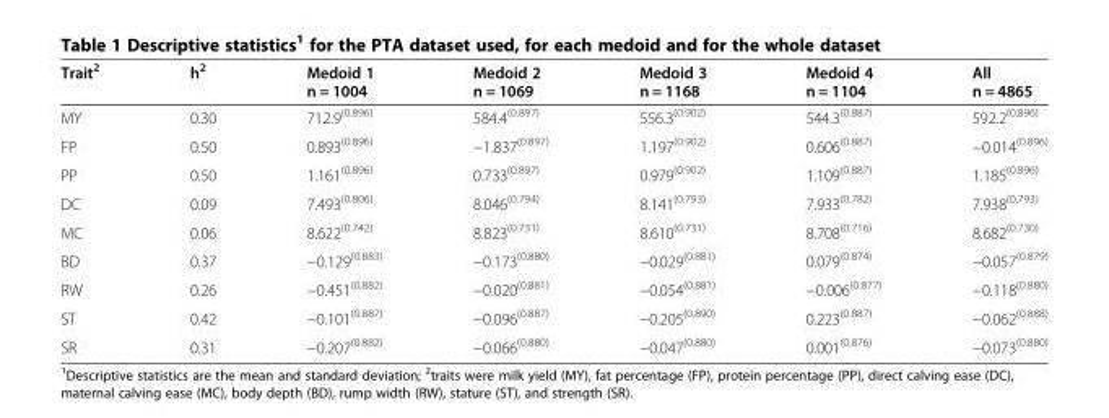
<table><thead><tr><td>Trait<sup>2</sup></td><td>h<sup>2</sup></td><td>Medoid 1 n = 1004</td><td>Medoid 2 n = 1069</td><td>Medoid 3 n = 1168</td><td>Medoid 4 n = 1104</td><td>All n = 4865</td></tr></thead><tbody><tr><td>MY</td><td>0.30</td><td>712.9<sup>(0.896)</sup></td><td>584.4<sup>(0.897)</sup></td><td>556.3<sup>(0.902)</sup></td><td>544.3<sup>(0.887)</sup></td><td>592.2<sup>(0.896)</sup></td></tr><tr><td>FP</td><td>0.50</td><td>0.893<sup>(0.896)</sup></td><td>−1.837<sup>(0.897)</sup></td><td>1.197<sup>(0.902)</sup></td><td>0.606<sup>(0.887)</sup></td><td>−0.014<sup>(0.896)</sup></td></tr><tr><td>PP</td><td>0.50</td><td>1.161<sup>(0.896)</sup></td><td>0.733<sup>(0.897)</sup></td><td>0.979<sup>(0.902)</sup></td><td>1.109<sup>(0.887)</sup></td><td>1.185<sup>(0.896)</sup></td></tr><tr><td>DC</td><td>0.09</td><td>7.493<sup>(0.806)</sup></td><td>8.046<sup>(0.794)</sup></td><td>8.141<sup>(0.793)</sup></td><td>7.933<sup>(0.782)</sup></td><td>7.938<sup>(0.793)</sup></td></tr><tr><td>MC</td><td>0.06</td><td>8.622<sup>(0.742)</sup></td><td>8.823<sup>(0.731)</sup></td><td>8.610<sup>(0.731)</sup></td><td>8.708<sup>(0.716)</sup></td><td>8.682<sup>(0.730)</sup></td></tr><tr><td>BD</td><td>0.37</td><td>−0.129<sup>(0.883)</sup></td><td>−0.173<sup>(0.880)</sup></td><td>−0.029<sup>(0.881)</sup></td><td>0.079<sup>(0.874)</sup></td><td>−0.057<sup>(0.879)</sup></td></tr><tr><td>RW</td><td>0.26</td><td>−0.451<sup>(0.882)</sup></td><td>−0.020<sup>(0.881)</sup></td><td>−0.054<sup>(0.881)</sup></td><td>−0.006<sup>(0.877)</sup></td><td>−0.118<sup>(0.880)</sup></td></tr><tr><td>ST</td><td>0.42</td><td>−0.101<sup>(0.887)</sup></td><td>−0.096<sup>(0.887)</sup></td><td>−0.205<sup>(0.890)</sup></td><td>0.223<sup>(0.887)</sup></td><td>−0.062<sup>(0.888)</sup></td></tr><tr><td>SR</td><td>0.31</td><td>−0.207<sup>(0.882)</sup></td><td>−0.066<sup>(0.880)</sup></td><td>−0.047<sup>(0.880)</sup></td><td>0.001<sup>(0.876)</sup></td><td>−0.073<sup>(0.880)</sup></td></tr></tbody></table>